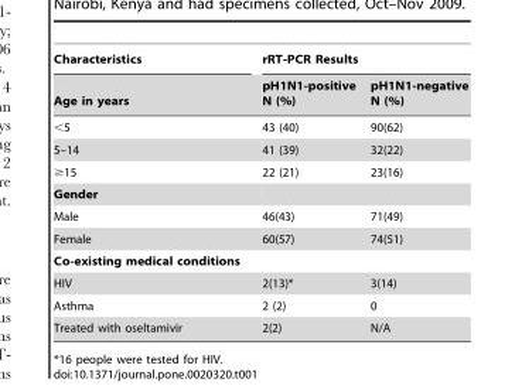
<table><thead><tr><td rowspan="2">Characteristics Age in years</td><td colspan="2">rRT-PCR Results</td></tr><tr><td>pH1N1-positive N (%)</td><td>pH1N1-negative N (%)</td></tr></thead><tbody><tr><td>&lt;5</td><td>43 (40)</td><td>90(62)</td></tr><tr><td>5–14</td><td>41 (39)</td><td>32(22)</td></tr><tr><td>≥15</td><td>22 (21)</td><td>23(16)</td></tr><tr><td colspan="3">Gender</td></tr><tr><td>Male</td><td>46(43)</td><td>71(49)</td></tr><tr><td>Female</td><td>60(57)</td><td>74(51)</td></tr><tr><td colspan="3">Co-existing medical conditions</td></tr><tr><td>HIV</td><td>2(13)*</td><td>3(14)</td></tr><tr><td>Asthma</td><td>2 (2)</td><td>0</td></tr><tr><td>Treated with oseltamivir</td><td>2(2)</td><td>N/A</td></tr></tbody></table>